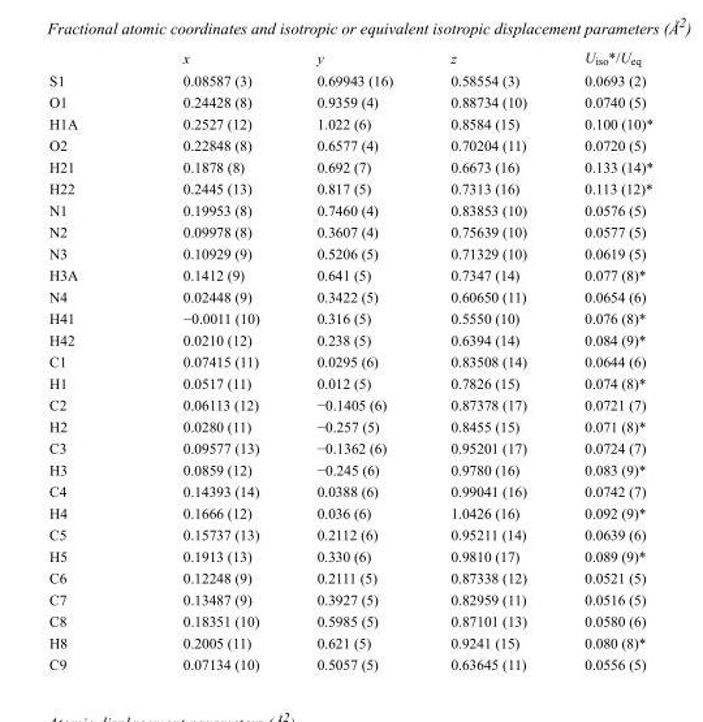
<table><thead><tr><td></td><td>x</td><td>y</td><td>z</td><td>U<sub>iso</sub>*/U<sub>eq</sub></td></tr></thead><tbody><tr><td>S1</td><td>0.08587 (3)</td><td>0.69943 (16)</td><td>0.58554 (3)</td><td>0.0693 (2)</td></tr><tr><td>O1</td><td>0.24428 (8)</td><td>0.9359 (4)</td><td>0.88734 (10)</td><td>0.0740 (5)</td></tr><tr><td>H1A</td><td>0.2527 (12)</td><td>1.022 (6)</td><td>0.8584 (15)</td><td>0.100 (10)*</td></tr><tr><td>O2</td><td>0.22848 (8)</td><td>0.6577 (4)</td><td>0.70204 (11)</td><td>0.0720 (5)</td></tr><tr><td>H21</td><td>0.1878 (8)</td><td>0.692 (7)</td><td>0.6673 (16)</td><td>0.133 (14)*</td></tr><tr><td>H22</td><td>0.2445 (13)</td><td>0.817 (5)</td><td>0.7313 (16)</td><td>0.113 (12)*</td></tr><tr><td>N1</td><td>0.19953 (8)</td><td>0.7460 (4)</td><td>0.83853 (10)</td><td>0.0576 (5)</td></tr><tr><td>N2</td><td>0.09978 (8)</td><td>0.3607 (4)</td><td>0.75639 (10)</td><td>0.0577 (5)</td></tr><tr><td>N3</td><td>0.10929 (9)</td><td>0.5206 (5)</td><td>0.71329 (10)</td><td>0.0619 (5)</td></tr><tr><td>H3A</td><td>0.1412 (9)</td><td>0.641 (5)</td><td>0.7347 (14)</td><td>0.077 (8)*</td></tr><tr><td>N4</td><td>0.02448 (9)</td><td>0.3422 (5)</td><td>0.60650 (11)</td><td>0.0654 (6)</td></tr><tr><td>H41</td><td>−0.0011 (10)</td><td>0.316 (5)</td><td>0.5550 (10)</td><td>0.076 (8)*</td></tr><tr><td>H42</td><td>0.0210 (12)</td><td>0.238 (5)</td><td>0.6394 (14)</td><td>0.084 (9)*</td></tr><tr><td>C1</td><td>0.07415 (11)</td><td>0.0295 (6)</td><td>0.83508 (14)</td><td>0.0644 (6)</td></tr><tr><td>H1</td><td>0.0517 (11)</td><td>0.012 (5)</td><td>0.7826 (15)</td><td>0.074 (8)*</td></tr><tr><td>C2</td><td>0.06113 (12)</td><td>−0.1405 (6)</td><td>0.87378 (17)</td><td>0.0721 (7)</td></tr><tr><td>H2</td><td>0.0280 (11)</td><td>−0.257 (5)</td><td>0.8455 (15)</td><td>0.071 (8)*</td></tr><tr><td>C3</td><td>0.09577 (13)</td><td>−0.1362 (6)</td><td>0.95201 (17)</td><td>0.0724 (7)</td></tr><tr><td>H3</td><td>0.0859 (12)</td><td>−0.245 (6)</td><td>0.9780 (16)</td><td>0.083 (9)*</td></tr><tr><td>C4</td><td>0.14393 (14)</td><td>0.0388 (6)</td><td>0.99041 (16)</td><td>0.0742 (7)</td></tr><tr><td>H4</td><td>0.1666 (12)</td><td>0.036 (6)</td><td>1.0426 (16)</td><td>0.092 (9)*</td></tr><tr><td>C5</td><td>0.15737 (13)</td><td>0.2112 (6)</td><td>0.95211 (14)</td><td>0.0639 (6)</td></tr><tr><td>H5</td><td>0.1913 (13)</td><td>0.330 (6)</td><td>0.9810 (17)</td><td>0.089 (9)*</td></tr><tr><td>C6</td><td>0.12248 (9)</td><td>0.2111 (5)</td><td>0.87338 (12)</td><td>0.0521 (5)</td></tr><tr><td>C7</td><td>0.13487 (9)</td><td>0.3927 (5)</td><td>0.82959 (11)</td><td>0.0516 (5)</td></tr><tr><td>C8</td><td>0.18351 (10)</td><td>0.5985 (5)</td><td>0.87101 (13)</td><td>0.0580 (6)</td></tr><tr><td>H8</td><td>0.2005 (11)</td><td>0.621 (5)</td><td>0.9241 (15)</td><td>0.080 (8)*</td></tr><tr><td>C9</td><td>0.07134 (10)</td><td>0.5057 (5)</td><td>0.63645 (11)</td><td>0.0556 (5)</td></tr></tbody></table>